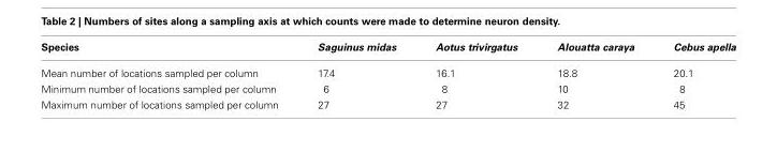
<table><thead><tr><td>Species</td><td>Saguinus midas</td><td>Aotus trivirgatus</td><td>Alouatta caraya</td><td>Cebus apella</td></tr></thead><tbody><tr><td>Mean number of locations sampled per column</td><td>17.4</td><td>16.1</td><td>18.8</td><td>20.1</td></tr><tr><td>Minimum number of locations sampled per column</td><td>6</td><td>8</td><td>10</td><td>8</td></tr><tr><td>Maximum number of locations sampled per column</td><td>27</td><td>27</td><td>32</td><td>45</td></tr></tbody></table>